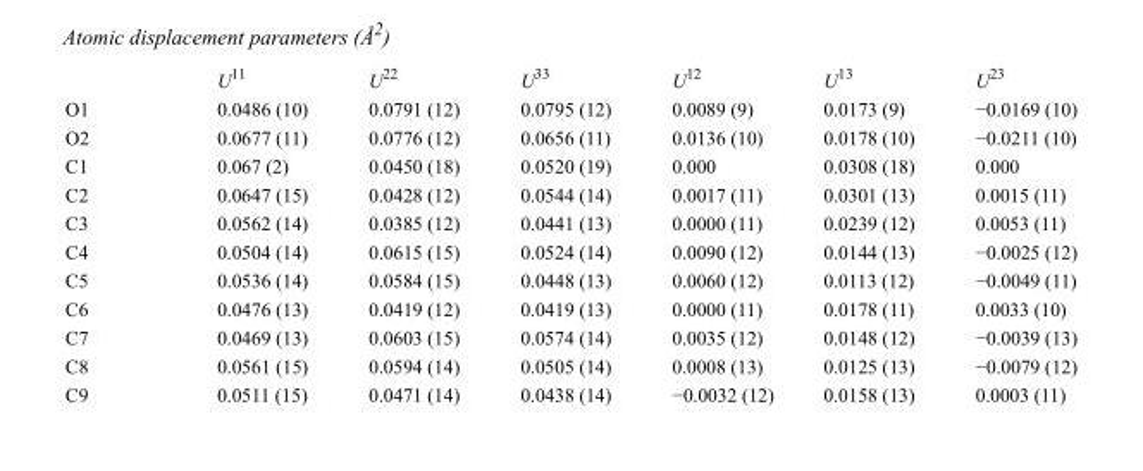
<table><thead><tr><td></td><td>U<sup>11</sup></td><td>U<sup>22</sup></td><td>U<sup>33</sup></td><td>U<sup>12</sup></td><td>U<sup>13</sup></td><td>U<sup>23</sup></td></tr></thead><tbody><tr><td>O1</td><td>0.0486 (10)</td><td>0.0791 (12)</td><td>0.0795 (12)</td><td>0.0089 (9)</td><td>0.0173 (9)</td><td>−0.0169 (10)</td></tr><tr><td>O2</td><td>0.0677 (11)</td><td>0.0776 (12)</td><td>0.0656 (11)</td><td>0.0136 (10)</td><td>0.0178 (10)</td><td>−0.0211 (10)</td></tr><tr><td>C1</td><td>0.067 (2)</td><td>0.0450 (18)</td><td>0.0520 (19)</td><td>0.000</td><td>0.0308 (18)</td><td>0.000</td></tr><tr><td>C2</td><td>0.0647 (15)</td><td>0.0428 (12)</td><td>0.0544 (14)</td><td>0.0017 (11)</td><td>0.0301 (13)</td><td>0.0015 (11)</td></tr><tr><td>C3</td><td>0.0562 (14)</td><td>0.0385 (12)</td><td>0.0441 (13)</td><td>0.0000 (11)</td><td>0.0239 (12)</td><td>0.0053 (11)</td></tr><tr><td>C4</td><td>0.0504 (14)</td><td>0.0615 (15)</td><td>0.0524 (14)</td><td>0.0090 (12)</td><td>0.0144 (13)</td><td>−0.0025 (12)</td></tr><tr><td>C5</td><td>0.0536 (14)</td><td>0.0584 (15)</td><td>0.0448 (13)</td><td>0.0060 (12)</td><td>0.0113 (12)</td><td>−0.0049 (11)</td></tr><tr><td>C6</td><td>0.0476 (13)</td><td>0.0419 (12)</td><td>0.0419 (13)</td><td>0.0000 (11)</td><td>0.0178 (11)</td><td>0.0033 (10)</td></tr><tr><td>C7</td><td>0.0469 (13)</td><td>0.0603 (15)</td><td>0.0574 (14)</td><td>0.0035 (12)</td><td>0.0148 (12)</td><td>−0.0039 (13)</td></tr><tr><td>C8</td><td>0.0561 (15)</td><td>0.0594 (14)</td><td>0.0505 (14)</td><td>0.0008 (13)</td><td>0.0125 (13)</td><td>−0.0079 (12)</td></tr><tr><td>C9</td><td>0.0511 (15)</td><td>0.0471 (14)</td><td>0.0438 (14)</td><td>−0.0032 (12)</td><td>0.0158 (13)</td><td>0.0003 (11)</td></tr></tbody></table>